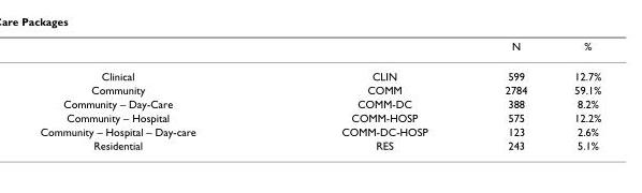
<table><thead><tr><td></td><td></td><td>N</td><td>%</td></tr></thead><tbody><tr><td>Clinical</td><td>CLIN</td><td>599</td><td>12.7%</td></tr><tr><td>Community</td><td>COMM</td><td>2784</td><td>59.1%</td></tr><tr><td>Community – Day-Care</td><td>COMM-DC</td><td>388</td><td>8.2%</td></tr><tr><td>Community – Hospital</td><td>COMM-HOSP</td><td>575</td><td>12.2%</td></tr><tr><td>Community – Hospital – Day-care</td><td>COMM-DC-HOSP</td><td>123</td><td>2.6%</td></tr><tr><td>Residential</td><td>RES</td><td>243</td><td>5.1%</td></tr></tbody></table>